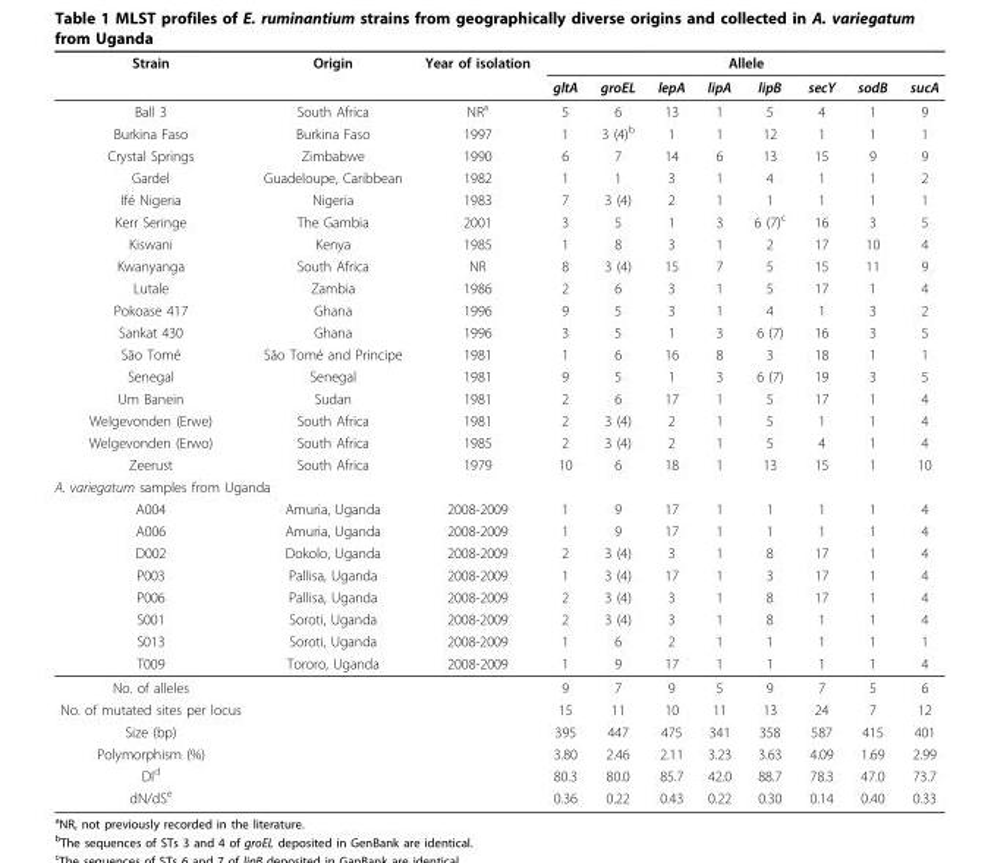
<table><thead><tr><td rowspan="2">Strain</td><td rowspan="2">Origin</td><td rowspan="2">Year of isolation</td><td colspan="8">Allele</td></tr><tr><td>gltA</td><td>groEL</td><td>lepA</td><td>lipA</td><td>lipB</td><td>secY</td><td>sodB</td><td>sucA</td></tr></thead><tbody><tr><td>Ball 3</td><td>South Africa</td><td>NR<sup>a</sup></td><td>5</td><td>6</td><td>13</td><td>1</td><td>5</td><td>4</td><td>1</td><td>9</td></tr><tr><td>Burkina Faso</td><td>Burkina Faso</td><td>1997</td><td>1</td><td>3 (4)<sup>b</sup></td><td>1</td><td>1</td><td>12</td><td>1</td><td>1</td><td>1</td></tr><tr><td>Crystal Springs</td><td>Zimbabwe</td><td>1990</td><td>6</td><td>7</td><td>14</td><td>6</td><td>13</td><td>15</td><td>9</td><td>9</td></tr><tr><td>Gardel</td><td>Guadeloupe, Caribbean</td><td>1982</td><td>1</td><td>1</td><td>3</td><td>1</td><td>4</td><td>1</td><td>1</td><td>2</td></tr><tr><td>Ifé Nigeria</td><td>Nigeria</td><td>1983</td><td>7</td><td>3 (4)</td><td>2</td><td>1</td><td>1</td><td>1</td><td>1</td><td>1</td></tr><tr><td>Kerr Seringe</td><td>The Gambia</td><td>2001</td><td>3</td><td>5</td><td>1</td><td>3</td><td>6 (7)<sup>c</sup></td><td>16</td><td>3</td><td>5</td></tr><tr><td>Kiswani</td><td>Kenya</td><td>1985</td><td>1</td><td>8</td><td>3</td><td>1</td><td>2</td><td>17</td><td>10</td><td>4</td></tr><tr><td>Kwanyanga</td><td>South Africa</td><td>NR</td><td>8</td><td>3 (4)</td><td>15</td><td>7</td><td>5</td><td>15</td><td>11</td><td>9</td></tr><tr><td>Lutale</td><td>Zambia</td><td>1986</td><td>2</td><td>6</td><td>3</td><td>1</td><td>5</td><td>17</td><td>1</td><td>4</td></tr><tr><td>Pokoase 417</td><td>Ghana</td><td>1996</td><td>9</td><td>5</td><td>3</td><td>1</td><td>4</td><td>1</td><td>3</td><td>2</td></tr><tr><td>Sankat 430</td><td>Ghana</td><td>1996</td><td>3</td><td>5</td><td>1</td><td>3</td><td>6 (7)</td><td>16</td><td>3</td><td>5</td></tr><tr><td>São Tomé</td><td>São Tomé and Principe</td><td>1981</td><td>1</td><td>6</td><td>16</td><td>8</td><td>3</td><td>18</td><td>1</td><td>1</td></tr><tr><td>Senegal</td><td>Senegal</td><td>1981</td><td>9</td><td>5</td><td>1</td><td>3</td><td>6 (7)</td><td>19</td><td>3</td><td>5</td></tr><tr><td>Um Banein</td><td>Sudan</td><td>1981</td><td>2</td><td>6</td><td>17</td><td>1</td><td>5</td><td>17</td><td>1</td><td>4</td></tr><tr><td>Welgevonden (Erwe)</td><td>South Africa</td><td>1981</td><td>2</td><td>3 (4)</td><td>2</td><td>1</td><td>5</td><td>1</td><td>1</td><td>4</td></tr><tr><td>Welgevonden (Erwo)</td><td>South Africa</td><td>1985</td><td>2</td><td>3 (4)</td><td>2</td><td>1</td><td>5</td><td>4</td><td>1</td><td>4</td></tr><tr><td>Zeerust</td><td>South Africa</td><td>1979</td><td>10</td><td>6</td><td>18</td><td>1</td><td>13</td><td>15</td><td>1</td><td>10</td></tr><tr><td colspan="11">A. variegatum samples from Uganda</td></tr><tr><td>A004</td><td>Amuria, Uganda</td><td>2008-2009</td><td>1</td><td>9</td><td>17</td><td>1</td><td>1</td><td>1</td><td>1</td><td>4</td></tr><tr><td>A006</td><td>Amuria, Uganda</td><td>2008-2009</td><td>1</td><td>9</td><td>17</td><td>1</td><td>1</td><td>1</td><td>1</td><td>4</td></tr><tr><td>D002</td><td>Dokolo, Uganda</td><td>2008-2009</td><td>2</td><td>3 (4)</td><td>3</td><td>1</td><td>8</td><td>17</td><td>1</td><td>4</td></tr><tr><td>P003</td><td>Pallisa, Uganda</td><td>2008-2009</td><td>1</td><td>3 (4)</td><td>17</td><td>1</td><td>3</td><td>17</td><td>1</td><td>4</td></tr><tr><td>P006</td><td>Pallisa, Uganda</td><td>2008-2009</td><td>2</td><td>3 (4)</td><td>3</td><td>1</td><td>8</td><td>17</td><td>1</td><td>4</td></tr><tr><td>S001</td><td>Soroti, Uganda</td><td>2008-2009</td><td>2</td><td>3 (4)</td><td>3</td><td>1</td><td>8</td><td>1</td><td>1</td><td>4</td></tr><tr><td>S013</td><td>Soroti, Uganda</td><td>2008-2009</td><td>1</td><td>6</td><td>2</td><td>1</td><td>1</td><td>1</td><td>1</td><td>1</td></tr><tr><td>T009</td><td>Tororo, Uganda</td><td>2008-2009</td><td>1</td><td>9</td><td>17</td><td>1</td><td>1</td><td>1</td><td>1</td><td>4</td></tr><tr><td>No. of alleles</td><td></td><td></td><td>9</td><td>7</td><td>9</td><td>5</td><td>9</td><td>7</td><td>5</td><td>6</td></tr><tr><td>No. of mutated sites per locus</td><td></td><td></td><td>15</td><td>11</td><td>10</td><td>11</td><td>13</td><td>24</td><td>7</td><td>12</td></tr><tr><td>Size (bp)</td><td></td><td></td><td>395</td><td>447</td><td>475</td><td>341</td><td>358</td><td>587</td><td>415</td><td>401</td></tr><tr><td>Polymorphism (%)</td><td></td><td></td><td>3.80</td><td>2.46</td><td>2.11</td><td>3.23</td><td>3.63</td><td>4.09</td><td>1.69</td><td>2.99</td></tr><tr><td>DI<sup>d</sup></td><td></td><td></td><td>80.3</td><td>80.0</td><td>85.7</td><td>42.0</td><td>88.7</td><td>78.3</td><td>47.0</td><td>73.7</td></tr><tr><td>dN/dS<sup>e</sup></td><td></td><td></td><td>0.36</td><td>0.22</td><td>0.43</td><td>0.22</td><td>0.30</td><td>0.14</td><td>0.40</td><td>0.33</td></tr></tbody></table>